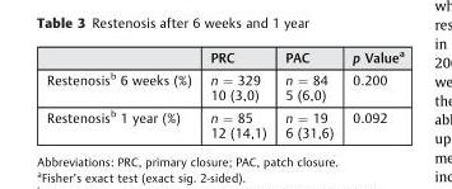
<table><thead><tr><td></td><td>PRC</td><td>PAC</td><td>p Valuea</td></tr></thead><tbody><tr><td>Restenosisb 6 weeks (%)</td><td>n = 329 10 (3,0)</td><td>n = 84 5 (6,0)</td><td>0.200</td></tr><tr><td>Restenosisb 1 year (%)</td><td>n = 85 12 (14,1)</td><td>n = 19 6 (31,6)</td><td>0.092</td></tr></tbody></table>